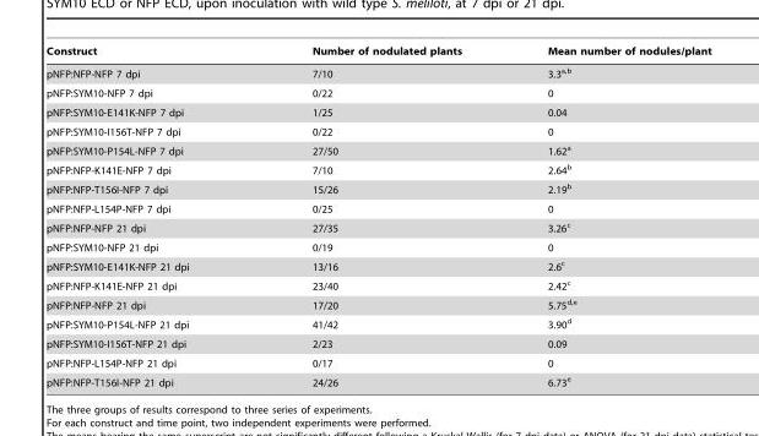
<table><thead><tr><td>Construct</td><td>Number of nodulated plants</td><td>Mean number of nodules/plant</td></tr></thead><tbody><tr><td>pNFP:NFP-NFP 7 dpi</td><td>7/10</td><td>3.3<sup>a,b</sup></td></tr><tr><td>pNFP:SYM10-NFP 7 dpi</td><td>0/22</td><td>0</td></tr><tr><td>pNFP:SYM10-E141K-NFP 7 dpi</td><td>1/25</td><td>0.04</td></tr><tr><td>pNFP:SYM10-I156T-NFP 7 dpi</td><td>0/22</td><td>0</td></tr><tr><td>pNFP:SYM10-P154L-NFP 7 dpi</td><td>27/50</td><td>1.62<sup>a</sup></td></tr><tr><td>pNFP:NFP-K141E-NFP 7 dpi</td><td>7/10</td><td>2.64<sup>b</sup></td></tr><tr><td>pNFP:NFP-T156I-NFP 7 dpi</td><td>15/26</td><td>2.19<sup>b</sup></td></tr><tr><td>pNFP:NFP-L154P-NFP 7 dpi</td><td>0/25</td><td>0</td></tr><tr><td>pNFP:NFP-NFP 21 dpi</td><td>27/35</td><td>3.26<sup>c</sup></td></tr><tr><td>pNFP:SYM10-NFP 21 dpi</td><td>0/19</td><td>0</td></tr><tr><td>pNFP:SYM10-E141K-NFP 21 dpi</td><td>13/16</td><td>2.6<sup>c</sup></td></tr><tr><td>pNFP:NFP-K141E-NFP 21 dpi</td><td>23/40</td><td>2.42<sup>c</sup></td></tr><tr><td>pNFP:NFP-NFP 21 dpi</td><td>17/20</td><td>5.75<sup>d,e</sup></td></tr><tr><td>pNFP:SYM10-P154L-NFP 21 dpi</td><td>41/42</td><td>3.90<sup>d</sup></td></tr><tr><td>pNFP:SYM10-I156T-NFP 21 dpi</td><td>2/23</td><td>0.09</td></tr><tr><td>pNFP:NFP-L154P-NFP 21 dpi</td><td>0/17</td><td>0</td></tr><tr><td>pNFP:NFP-T156I-NFP 21 dpi</td><td>24/26</td><td>6.73<sup>e</sup></td></tr></tbody></table>